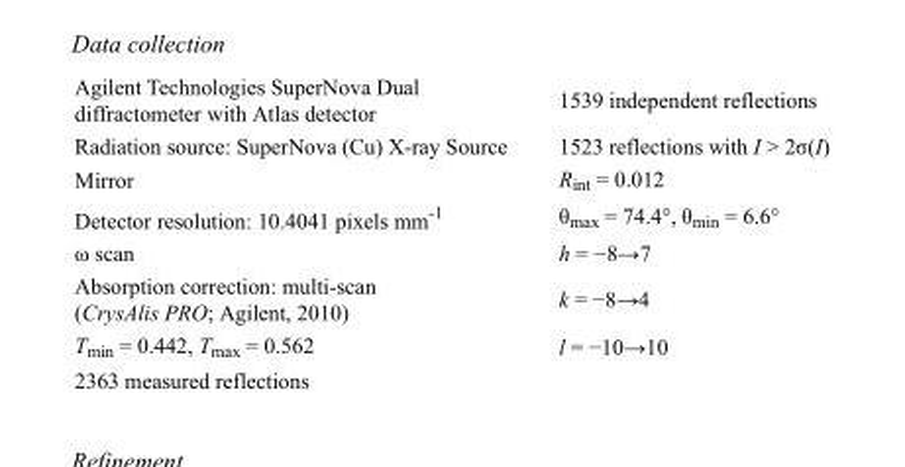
<table><tbody><tr><td>Agilent Technologies SuperNova Dual diffractometer with Atlas detector</td><td>1539 independent reflections</td></tr><tr><td>Radiation source: SuperNova (Cu) X-ray Source</td><td>1523 reflections with I &gt; 2σ(I)</td></tr><tr><td>Mirror</td><td>R<sub>int</sub> = 0.012</td></tr><tr><td>Detector resolution: 10.4041 pixels mm<sup>-1</sup></td><td>θ<sub>max</sub> = 74.4°, θ<sub>min</sub> = 6.6°</td></tr><tr><td>ω scan</td><td>h = −8→7</td></tr><tr><td>Absorption correction: multi-scan (CrysAlis PRO; Agilent, 2010)</td><td>k = −8→4</td></tr><tr><td>T<sub>min</sub> = 0.442, T<sub>max</sub> = 0.562</td><td>l = −10→10</td></tr><tr><td>2363 measured reflections</td><td></td></tr></tbody></table>